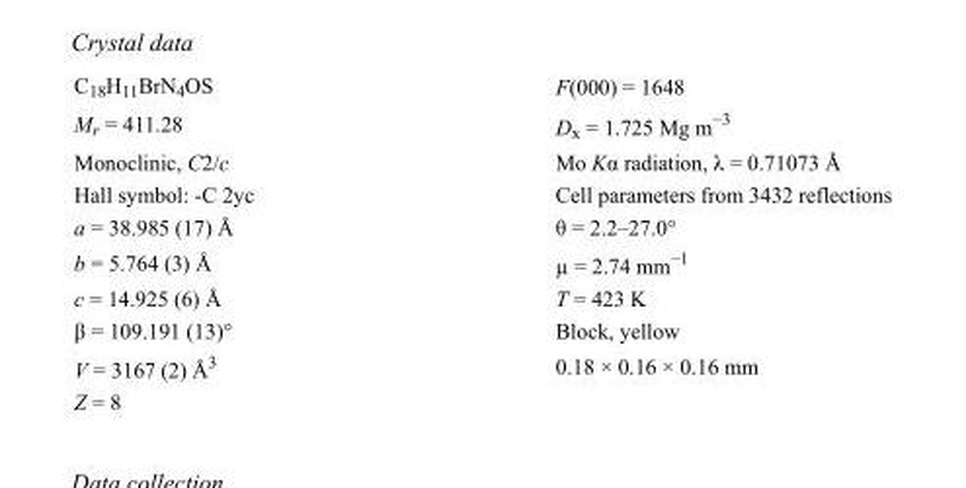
<table><tbody><tr><td>C<sub>18</sub>H<sub>11</sub>BrN<sub>4</sub>OS</td><td>F(000) = 1648</td></tr><tr><td>M<sub>r</sub> = 411.28</td><td>D<sub>x</sub> = 1.725 Mg m<sup>−3</sup></td></tr><tr><td>Monoclinic, C2/c</td><td>Mo Kα radiation, λ = 0.71073 Å</td></tr><tr><td>Hall symbol: -C 2yc</td><td>Cell parameters from 3432 reflections</td></tr><tr><td>a = 38.985 (17) Å</td><td>θ = 2.2–27.0°</td></tr><tr><td>b = 5.764 (3) Å</td><td>µ = 2.74 mm<sup>−1</sup></td></tr><tr><td>c = 14.925 (6) Å</td><td>T = 423 K</td></tr><tr><td>β = 109.191 (13)°</td><td>Block, yellow</td></tr><tr><td>V = 3167 (2) Å<sup>3</sup></td><td>0.18 × 0.16 × 0.16 mm</td></tr><tr><td>Z = 8</td><td></td></tr></tbody></table>